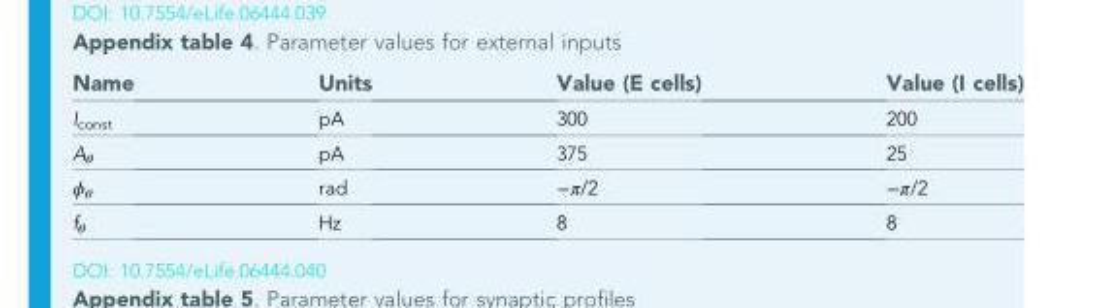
<table><thead><tr><td>Name</td><td>Units</td><td>Value (E cells)</td><td>Value (I cells)</td></tr></thead><tbody><tr><td>I<sub>const</sub></td><td>pA</td><td>300</td><td>200</td></tr><tr><td>A<sub>θ</sub></td><td>pA</td><td>375</td><td>25</td></tr><tr><td>ϕ<sub>θ</sub></td><td>rad</td><td>−π/2</td><td>−π/2</td></tr><tr><td>f<sub>θ</sub></td><td>Hz</td><td>8</td><td>8</td></tr></tbody></table>